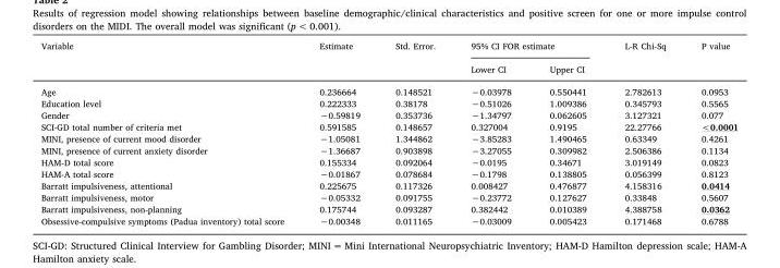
<table><thead><tr><td rowspan="2">Variable</td><td rowspan="2">Estimate</td><td rowspan="2">Std. Error.</td><td colspan="2">95% CI FOR estimate</td><td rowspan="2">L-R Chi-Sq</td><td rowspan="2">P value</td></tr><tr><td>Lower CI</td><td>Upper CI</td></tr></thead><tbody><tr><td>Age</td><td>0.236664</td><td>0.148521</td><td>−0.03978</td><td>0.550441</td><td>2.782613</td><td>0.0953</td></tr><tr><td>Education level</td><td>0.222333</td><td>0.38178</td><td>−0.51026</td><td>1.009386</td><td>0.345793</td><td>0.5565</td></tr><tr><td>Gender</td><td>−0.59819</td><td>0.353736</td><td>−1.34797</td><td>0.062605</td><td>3.127321</td><td>0.077</td></tr><tr><td>SCI-GD total number of criteria met</td><td>0.591585</td><td>0.148657</td><td>0.327004</td><td>0.9195</td><td>22.27766</td><td>&lt;0.0001</td></tr><tr><td>MINI, presence of current mood disorder</td><td>−1.05081</td><td>1.344862</td><td>−3.85283</td><td>1.490465</td><td>0.63349</td><td>0.4261</td></tr><tr><td>MINI, presence of current anxiety disorder</td><td>−1.36687</td><td>0.903898</td><td>−3.27055</td><td>0.309982</td><td>2.506386</td><td>0.1134</td></tr><tr><td>HAM-D total score</td><td>0.155334</td><td>0.092064</td><td>−0.0195</td><td>0.34671</td><td>3.019149</td><td>0.0823</td></tr><tr><td>HAM-A total score</td><td>−0.01867</td><td>0.078684</td><td>−0.1798</td><td>0.138805</td><td>0.056399</td><td>0.8123</td></tr><tr><td>Barratt impulsiveness, attentional</td><td>0.225675</td><td>0.117326</td><td>0.008427</td><td>0.476877</td><td>4.158316</td><td>0.0414</td></tr><tr><td>Barratt impulsiveness, motor</td><td>−0.05332</td><td>0.091755</td><td>−0.23772</td><td>0.127627</td><td>0.33848</td><td>0.5607</td></tr><tr><td>Barratt impulsiveness, non-planning</td><td>0.175744</td><td>0.093287</td><td>0.382442</td><td>0.010389</td><td>4.388758</td><td>0.0362</td></tr><tr><td>Obsessive-compulsive symptoms (Padua inventory) total score</td><td>−0.00348</td><td>0.011165</td><td>−0.03009</td><td>0.005423</td><td>0.171468</td><td>0.6788</td></tr></tbody></table>